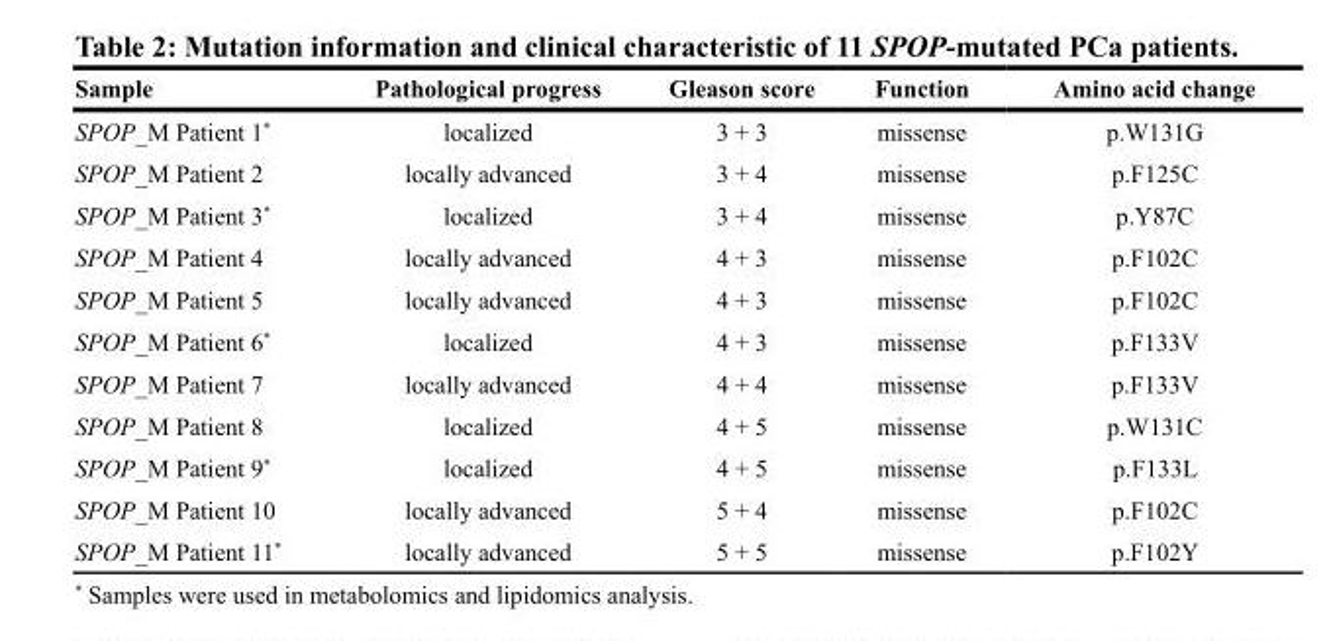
<table><thead><tr><td>Sample</td><td>Pathological progress</td><td>Gleason score</td><td>Function</td><td>Amino acid change</td></tr></thead><tbody><tr><td>SPOP_M Patient 1*</td><td>localized</td><td>3 + 3</td><td>missense</td><td>p.W131G</td></tr><tr><td>SPOP_M Patient 2</td><td>locally advanced</td><td>3 + 4</td><td>missense</td><td>p.F125C</td></tr><tr><td>SPOP_M Patient 3*</td><td>localized</td><td>3 + 4</td><td>missense</td><td>p.Y87C</td></tr><tr><td>SPOP_M Patient 4</td><td>locally advanced</td><td>4 + 3</td><td>missense</td><td>p.F102C</td></tr><tr><td>SPOP_M Patient 5</td><td>locally advanced</td><td>4 + 3</td><td>missense</td><td>p.F102C</td></tr><tr><td>SPOP_M Patient 6*</td><td>localized</td><td>4 + 3</td><td>missense</td><td>p.F133V</td></tr><tr><td>SPOP_M Patient 7</td><td>locally advanced</td><td>4 + 4</td><td>missense</td><td>p.F133V</td></tr><tr><td>SPOP_M Patient 8</td><td>localized</td><td>4 + 5</td><td>missense</td><td>p.W131C</td></tr><tr><td>SPOP_M Patient 9*</td><td>localized</td><td>4 + 5</td><td>missense</td><td>p.F133L</td></tr><tr><td>SPOP_M Patient 10</td><td>locally advanced</td><td>5 + 4</td><td>missense</td><td>p.F102C</td></tr><tr><td>SPOP_M Patient 11*</td><td>locally advanced</td><td>5 + 5</td><td>missense</td><td>p.F102Y</td></tr></tbody></table>